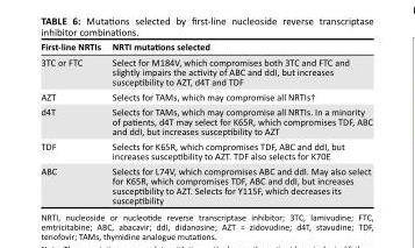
<table><thead><tr><td>First-line NRTIs</td><td>NRTI mutations selected</td></tr></thead><tbody><tr><td>3TC or FTC</td><td>Select for M184V, which compromises both 3TC and FTC and slightly impairs the activity of ABC and ddI, but increases susceptibility to AZT, d4T and TDF</td></tr><tr><td>AZT</td><td>Selects for TAMs, which may compromise all NRTIs†</td></tr><tr><td>d4T</td><td>Selects for TAMs, which may compromise all NRTIs. In a minority of patients, d4T may select for K65R, which compromises TDF, ABC and ddI, but increases susceptibility to AZT</td></tr><tr><td>TDF</td><td>Selects for K65R, which compromises TDF, ABC and ddI, but increases susceptibility to AZT. TDF also selects for K70E</td></tr><tr><td>ABC</td><td>Selects for L74V, which compromises ABC and ddI. May also select for K65R, which compromises TDF, ABC and ddI, but increases susceptibility to AZT. Selects for Y115F, which decreases its susceptibility</td></tr></tbody></table>